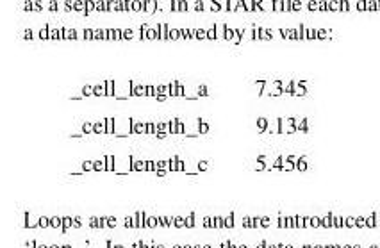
<table><tbody><tr><td>_cell_length_a</td><td>7.345</td></tr><tr><td>_cell_length_b</td><td>9.134</td></tr><tr><td>_cell_length_c</td><td>5.456</td></tr></tbody></table>